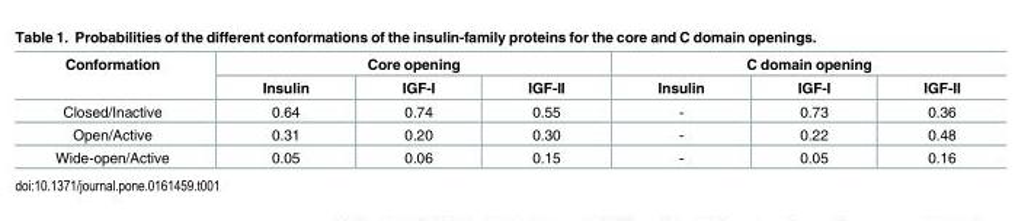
<table><thead><tr><td rowspan="2">Conformation</td><td colspan="3">Core opening</td><td colspan="3">C domain opening</td></tr><tr><td>Insulin</td><td>IGF-I</td><td>IGF-II</td><td>Insulin</td><td>IGF-I</td><td>IGF-II</td></tr></thead><tbody><tr><td>Closed/Inactive</td><td>0.64</td><td>0.74</td><td>0.55</td><td>-</td><td>0.73</td><td>0.36</td></tr><tr><td>Open/Active</td><td>0.31</td><td>0.20</td><td>0.30</td><td>-</td><td>0.22</td><td>0.48</td></tr><tr><td>Wide-open/Active</td><td>0.05</td><td>0.06</td><td>0.15</td><td>-</td><td>0.05</td><td>0.16</td></tr></tbody></table>